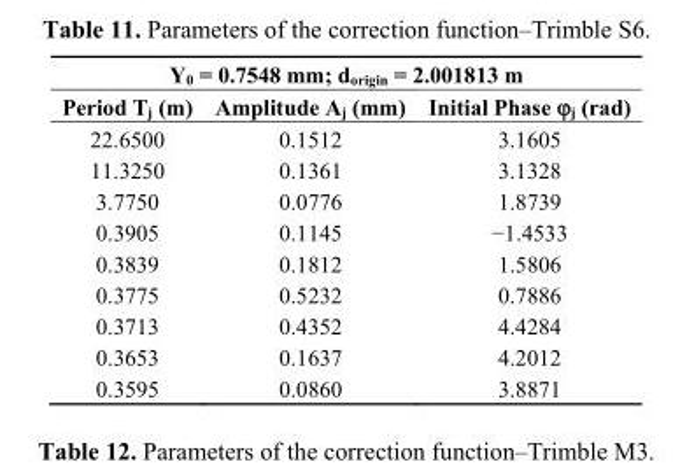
<table><thead><tr><td colspan="3">Y<sub>0</sub> = 0.7548 mm; d<sub>origin</sub> = 2.001813 m</td></tr><tr><td>Period T<sub>j</sub> (m)</td><td>Amplitude A<sub>j</sub> (mm)</td><td>Initial Phase ϕ<sub>j</sub> (rad)</td></tr></thead><tbody><tr><td>22.6500</td><td>0.1512</td><td>3.1605</td></tr><tr><td>11.3250</td><td>0.1361</td><td>3.1328</td></tr><tr><td>3.7750</td><td>0.0776</td><td>1.8739</td></tr><tr><td>0.3905</td><td>0.1145</td><td>−1.4533</td></tr><tr><td>0.3839</td><td>0.1812</td><td>1.5806</td></tr><tr><td>0.3775</td><td>0.5232</td><td>0.7886</td></tr><tr><td>0.3713</td><td>0.4352</td><td>4.4284</td></tr><tr><td>0.3653</td><td>0.1637</td><td>4.2012</td></tr><tr><td>0.3595</td><td>0.0860</td><td>3.8871</td></tr></tbody></table>